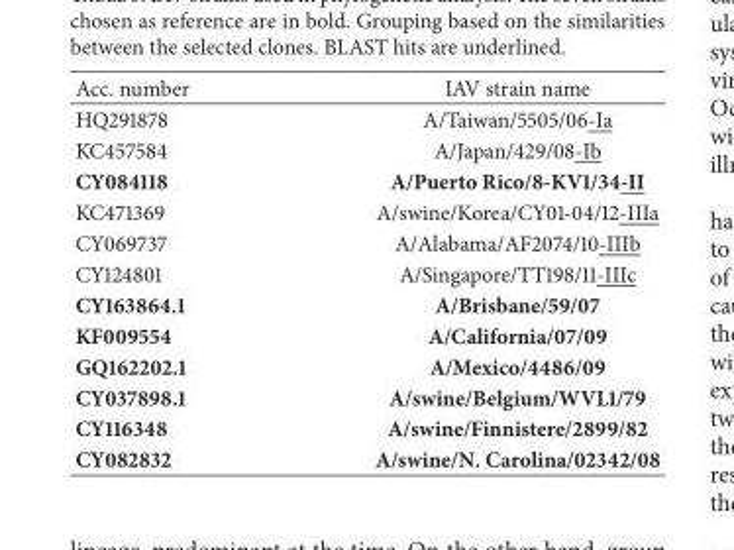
<table><thead><tr><td>Acc. number</td><td>IAV strain name</td></tr></thead><tbody><tr><td>HQ291878</td><td>A/Taiwan/5505/06-Ia</td></tr><tr><td>KC457584</td><td>A/Japan/429/08-Ib</td></tr><tr><td>CY084118</td><td>A/Puerto Rico/8-KV1/34-II</td></tr><tr><td>KC471369</td><td>A/swine/Korea/CY01-04/12-IIIa</td></tr><tr><td>CY069737</td><td>A/Alabama/AF2074/10-IIIb</td></tr><tr><td>CY124801</td><td>A/Singapore/TT198/11-IIIc</td></tr><tr><td>CY163864.1</td><td>A/Brisbane/59/07</td></tr><tr><td>KF009554</td><td>A/California/07/09</td></tr><tr><td>GQ162202.1</td><td>A/Mexico/4486/09</td></tr><tr><td>CY037898.1</td><td>A/swine/Belgium/WVL1/79</td></tr><tr><td>CY116348</td><td>A/swine/Finnistere/2899/82</td></tr><tr><td>CY082832</td><td>A/swine/N. Carolina/02342/08</td></tr></tbody></table>